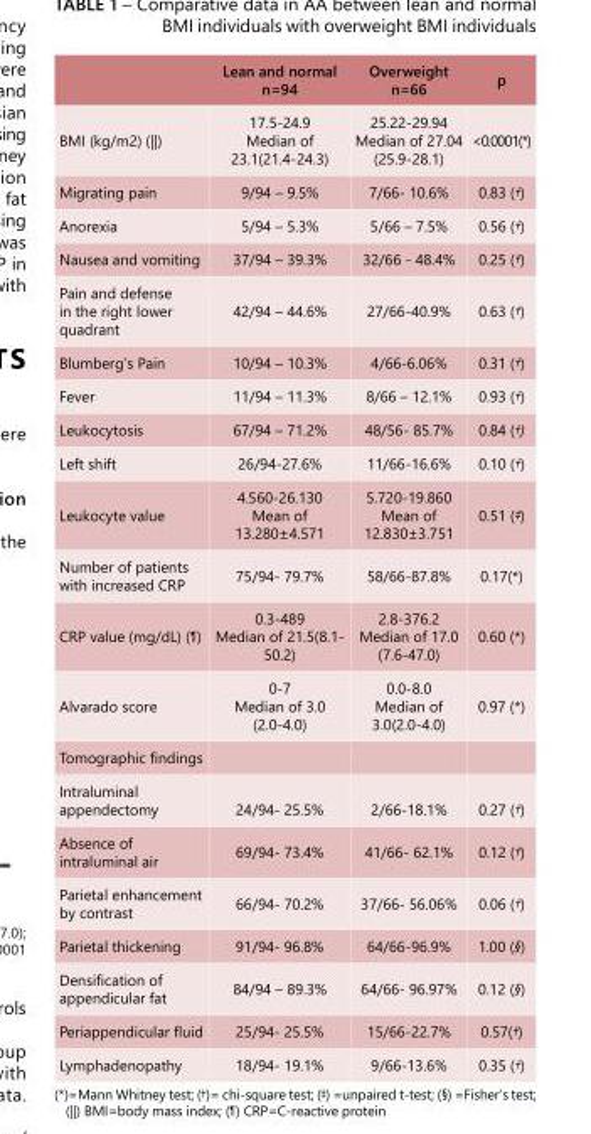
<table><thead><tr><td></td><td>Lean and normal n=94</td><td>Overweight n=66</td><td>p</td></tr></thead><tbody><tr><td>BMI (kg/m2) (||)</td><td>17.5-24.9 Median of 23.1(21.4-24.3)</td><td>25.22-29.94 Median of 27.04 (25.9-28.1)</td><td>&lt;0.0001(*)</td></tr><tr><td>Migrating pain</td><td>9/94 – 9.5%</td><td>7/66- 10.6%</td><td>0.83 (†)</td></tr><tr><td>Anorexia</td><td>5/94 – 5.3%</td><td>5/66 – 7.5%</td><td>0.56 (†)</td></tr><tr><td>Nausea and vomiting</td><td>37/94 – 39.3%</td><td>32/66 - 48.4%</td><td>0.25 (†)</td></tr><tr><td>Pain and defense in the right lower quadrant</td><td>42/94 – 44.6%</td><td>27/66-40.9%</td><td>0.63 (†)</td></tr><tr><td>Blumberg’s Pain</td><td>10/94 – 10.3%</td><td>4/66-6.06%</td><td>0.31 (†)</td></tr><tr><td>Fever</td><td>11/94 – 11.3%</td><td>8/66 – 12.1%</td><td>0.93 (†)</td></tr><tr><td>Leukocytosis</td><td>67/94 – 71.2%</td><td>48/56- 85.7%</td><td>0.84 (†)</td></tr><tr><td>Left shift</td><td>26/94-27.6%</td><td>11/66-16.6%</td><td>0.10 (†)</td></tr><tr><td>Leukocyte value</td><td>4.560-26.130 Mean of 13.280±4.571</td><td>5.720-19.860 Mean of 12.830±3.751</td><td>0.51 (‡)</td></tr><tr><td>Number of patients with increased CRP</td><td>75/94- 79.7%</td><td>58/66-87.8%</td><td>0.17(*)</td></tr><tr><td>CRP value (mg/dL) (¶)</td><td>0.3-489 Median of 21.5(8.1- 50.2)</td><td>2.8-376.2 Median of 17.0 (7.6-47.0)</td><td>0.60 (*)</td></tr><tr><td>Alvarado score</td><td>0-7 Median of 3.0 (2.0-4.0)</td><td>0.0-8.0 Median of 3.0(2.0-4.0)</td><td>0.97 (*)</td></tr><tr><td colspan="4">Tomographic findings</td></tr><tr><td>Intraluminal appendectomy</td><td>24/94- 25.5%</td><td>2/66-18.1%</td><td>0.27 (†)</td></tr><tr><td>Absence of intraluminal air</td><td>69/94- 73.4%</td><td>41/66- 62.1%</td><td>0.12 (†)</td></tr><tr><td>Parietal enhancement by contrast</td><td>66/94- 70.2%</td><td>37/66- 56.06%</td><td>0.06 (†)</td></tr><tr><td>Parietal thickening</td><td>91/94- 96.8%</td><td>64/66-96.9%</td><td>1.00 (§)</td></tr><tr><td>Densification of appendicular fat</td><td>84/94 – 89.3%</td><td>64/66- 96.97%</td><td>0.12 (§)</td></tr><tr><td>Periappendicular fluid</td><td>25/94- 25.5%</td><td>15/66-22.7%</td><td>0.57(†)</td></tr><tr><td>Lymphadenopathy</td><td>18/94- 19.1%</td><td>9/66-13.6%</td><td>0.35 (†)</td></tr></tbody></table>